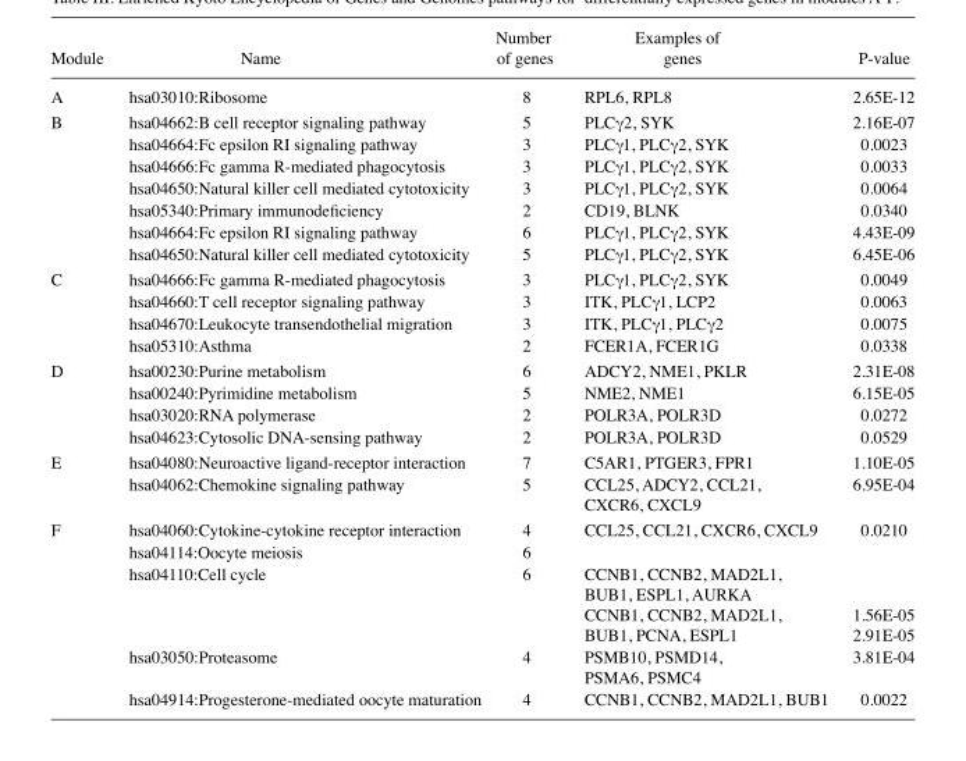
<table><thead><tr><td>Module</td><td>Name</td><td>of genes</td><td>genes</td><td>P-value</td></tr></thead><tbody><tr><td>A</td><td>hsa03010:Ribosome</td><td>8</td><td>RPL6, RPL8</td><td>2.65E-12</td></tr><tr><td rowspan="7">B</td><td>hsa04662:B cell receptor signaling pathway</td><td>5</td><td>PLCγ2, SYK</td><td>2.16E-07</td></tr><tr><td>hsa04664:Fc epsilon RI signaling pathway</td><td>3</td><td>PLCγ1, PLCγ2, SYK</td><td>0.0023</td></tr><tr><td>hsa04666:Fc gamma R-mediated phagocytosis</td><td>3</td><td>PLCγ1, PLCγ2, SYK</td><td>0.0033</td></tr><tr><td>hsa04650:Natural killer cell mediated cytotoxicity</td><td>3</td><td>PLCγ1, PLCγ2, SYK</td><td>0.0064</td></tr><tr><td>hsa05340:Primary immunodeficiency</td><td>2</td><td>CD19, BLNK</td><td>0.0340</td></tr><tr><td>hsa04664:Fc epsilon RI signaling pathway</td><td>6</td><td>PLCγ1, PLCγ2, SYK</td><td>4.43E-09</td></tr><tr><td>hsa04650:Natural killer cell mediated cytotoxicity</td><td>5</td><td>PLCγ1, PLCγ2, SYK</td><td>6.45E-06</td></tr><tr><td rowspan="4">C</td><td>hsa04666:Fc gamma R-mediated phagocytosis</td><td>3</td><td>PLCγ1, PLCγ2, SYK</td><td>0.0049</td></tr><tr><td>hsa04660:T cell receptor signaling pathway</td><td>3</td><td>ITK, PLCγ1, LCP2</td><td>0.0063</td></tr><tr><td>hsa04670:Leukocyte transendothelial migration</td><td>3</td><td>ITK, PLCγ1, PLCγ2</td><td>0.0075</td></tr><tr><td>hsa05310:Asthma</td><td>2</td><td>FCER1A, FCER1G</td><td>0.0338</td></tr><tr><td rowspan="4">D</td><td>hsa00230:Purine metabolism</td><td>6</td><td>ADCY2, NME1, PKLR</td><td>2.31E-08</td></tr><tr><td>hsa00240:Pyrimidine metabolism</td><td>5</td><td>NME2, NME1</td><td>6.15E-05</td></tr><tr><td>hsa03020:RNA polymerase</td><td>2</td><td>POLR3A, POLR3D</td><td>0.0272</td></tr><tr><td>hsa04623:Cytosolic DNA-sensing pathway</td><td>2</td><td>POLR3A, POLR3D</td><td>0.0529</td></tr><tr><td rowspan="2">E</td><td>hsa04080:Neuroactive ligand-receptor interaction</td><td>7</td><td>C5AR1, PTGER3, FPR1</td><td>1.10E-05</td></tr><tr><td>hsa04062:Chemokine signaling pathway</td><td>5</td><td>CCL25, ADCY2, CCL21, CXCR6, CXCL9</td><td>6.95E-04</td></tr><tr><td rowspan="5">F</td><td>hsa04060:Cytokine-cytokine receptor interaction</td><td>4</td><td>CCL25, CCL21, CXCR6, CXCL9</td><td>0.0210</td></tr><tr><td>hsa04114:Oocyte meiosis</td><td>6</td><td></td><td></td></tr><tr><td>hsa04110:Cell cycle</td><td>6</td><td>CCNB1, CCNB2, MAD2L1, BUB1, ESPL1, AURKA CCNB1, CCNB2, MAD2L1, BUB1, PCNA, ESPL1</td><td>1.56E-05 2.91E-05</td></tr><tr><td>hsa03050:Proteasome</td><td>4</td><td>PSMB10, PSMD14, PSMA6, PSMC4</td><td>3.81E-04</td></tr><tr><td>hsa04914:Progesterone-mediated oocyte maturation</td><td>4</td><td>CCNB1, CCNB2, MAD2L1, BUB1</td><td>0.0022</td></tr></tbody></table>